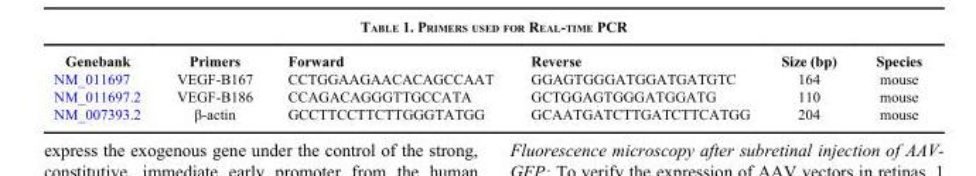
<table><thead><tr><td>Genebank</td><td>Primers</td><td>Forward</td><td>Reverse</td><td>Size (bp)</td><td>Species</td></tr></thead><tbody><tr><td>NM_011697</td><td>VEGF-B167</td><td>CCTGGAAGAACACAGCCAAT</td><td>GGAGTGGGATGGATGATGTC</td><td>164</td><td>mouse</td></tr><tr><td>NM_011697.2</td><td>VEGF-B186</td><td>CCAGACAGGGTTGCCATA</td><td>GCTGGAGTGGGATGGATG</td><td>110</td><td>mouse</td></tr><tr><td>NM_007393.2</td><td>β-actin</td><td>GCCTTCCTTCTTGGGTATGG</td><td>GCAATGATCTTGATCTTCATGG</td><td>204</td><td>mouse</td></tr></tbody></table>